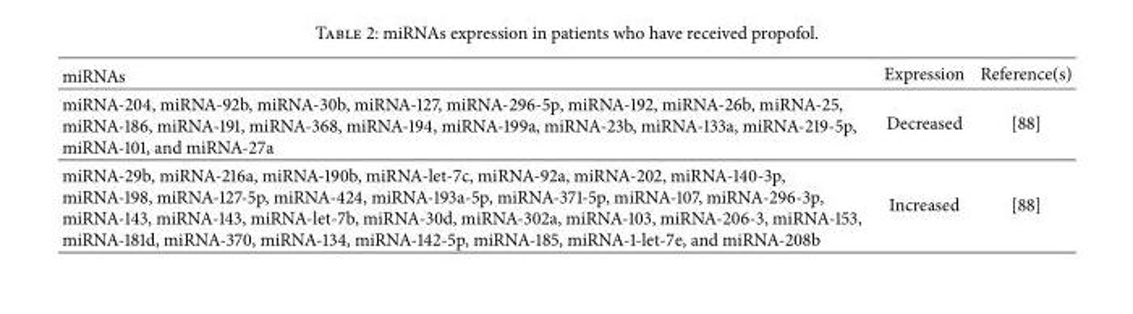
<table><thead><tr><td>miRNAs</td><td>Expression</td><td>Reference(s)</td></tr></thead><tbody><tr><td>miRNA-204, miRNA-92b, miRNA-30b, miRNA-127, miRNA-296-5p, miRNA-192, miRNA-26b, miRNA-25, miRNA-186, miRNA-191, miRNA-368, miRNA-194, miRNA-199a, miRNA-23b, miRNA-133a, miRNA-219-5p, miRNA-101, and miRNA-27a</td><td>Decreased</td><td>[88]</td></tr><tr><td>miRNA-29b, miRNA-216a, miRNA-190b, miRNA-let-7c, miRNA-92a, miRNA-202, miRNA-140-3p, miRNA-198, miRNA-127-5p, miRNA-424, miRNA-193a-5p, miRNA-371-5p, miRNA-107, miRNA-296-3p, miRNA-143, miRNA-143, miRNA-let-7b, miRNA-30d, miRNA-302a, miRNA-103, miRNA-206-3, miRNA-153, miRNA-181d, miRNA-370, miRNA-134, miRNA-142-5p, miRNA-185, miRNA-1-let-7e, and miRNA-208b</td><td>Increased</td><td>[88]</td></tr></tbody></table>